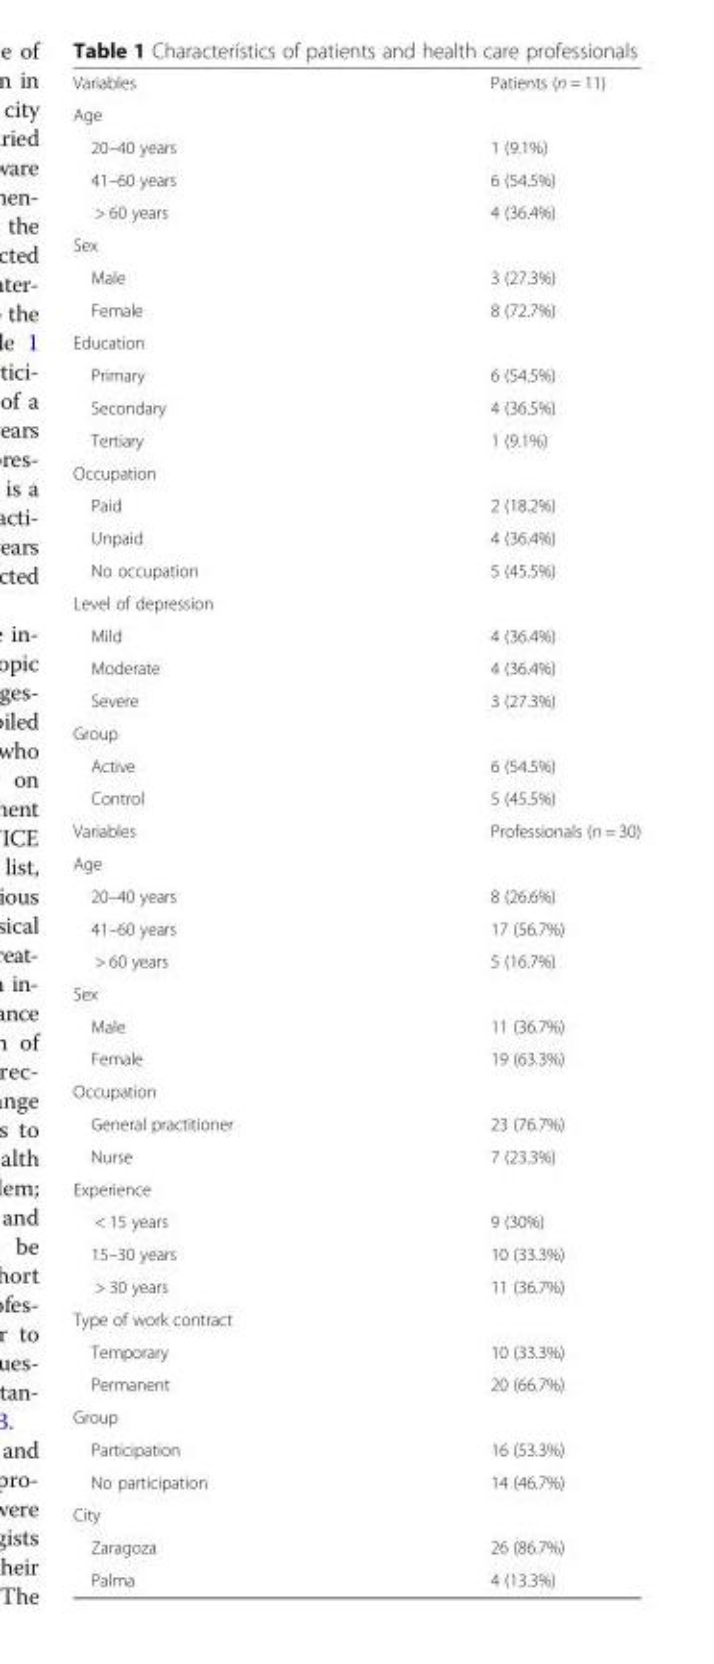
<table><tbody><tr><td>Variables</td><td>Patients (n = 11)</td></tr><tr><td colspan="2">Age</td></tr><tr><td>20–40 years</td><td>1 (9.1%)</td></tr><tr><td>41–60 years</td><td>6 (54.5%)</td></tr><tr><td>&gt; 60 years</td><td>4 (36.4%)</td></tr><tr><td colspan="2">Sex</td></tr><tr><td>Male</td><td>3 (27.3%)</td></tr><tr><td>Female</td><td>8 (72.7%)</td></tr><tr><td colspan="2">Education</td></tr><tr><td>Primary</td><td>6 (54.5%)</td></tr><tr><td>Secondary</td><td>4 (36.5%)</td></tr><tr><td>Tertiary</td><td>1 (9.1%)</td></tr><tr><td colspan="2">Occupation</td></tr><tr><td>Paid</td><td>2 (18.2%)</td></tr><tr><td>Unpaid</td><td>4 (36.4%)</td></tr><tr><td>No occupation</td><td>5 (45.5%)</td></tr><tr><td colspan="2">Level of depression</td></tr><tr><td>Mild</td><td>4 (36.4%)</td></tr><tr><td>Moderate</td><td>4 (36.4%)</td></tr><tr><td>Severe</td><td>3 (27.3%)</td></tr><tr><td colspan="2">Group</td></tr><tr><td>Active</td><td>6 (54.5%)</td></tr><tr><td>Control</td><td>5 (45.5%)</td></tr><tr><td>Variables</td><td>Professionals (n = 30)</td></tr><tr><td colspan="2">Age</td></tr><tr><td>20–40 years</td><td>8 (26.6%)</td></tr><tr><td>41–60 years</td><td>17 (56.7%)</td></tr><tr><td>&gt; 60 years</td><td>5 (16.7%)</td></tr><tr><td colspan="2">Sex</td></tr><tr><td>Male</td><td>11 (36.7%)</td></tr><tr><td>Female</td><td>19 (63.3%)</td></tr><tr><td colspan="2">Occupation</td></tr><tr><td>General practitioner</td><td>23 (76.7%)</td></tr><tr><td>Nurse</td><td>7 (23.3%)</td></tr><tr><td colspan="2">Experience</td></tr><tr><td>&lt; 15 years</td><td>9 (30%)</td></tr><tr><td>15–30 years</td><td>10 (33.3%)</td></tr><tr><td>&gt; 30 years</td><td>11 (36.7%)</td></tr><tr><td colspan="2">Type of work contract</td></tr><tr><td>Temporary</td><td>10 (33.3%)</td></tr><tr><td>Permanent</td><td>20 (66.7%)</td></tr><tr><td colspan="2">Group</td></tr><tr><td>Participation</td><td>16 (53.3%)</td></tr><tr><td>No participation</td><td>14 (46.7%)</td></tr><tr><td colspan="2">City</td></tr><tr><td>Zaragoza</td><td>26 (86.7%)</td></tr><tr><td>Palma</td><td>4 (13.3%)</td></tr></tbody></table>